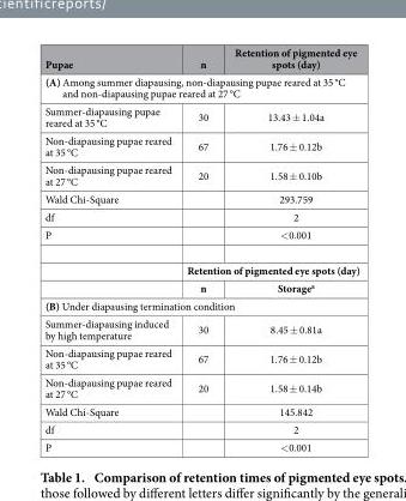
<table><thead><tr><td>Pupae</td><td>n</td><td>Retention of pigmented eye spots (day)</td></tr></thead><tbody><tr><td colspan="3">(A) Among summer diapausing, non-diapausing pupae reared at 35 °C and non-diapausing pupae reared at 27 °C</td></tr><tr><td>Summer-diapausing pupae reared at 35 °C</td><td>30</td><td>13.43 ± 1.04a</td></tr><tr><td>Non-diapausing pupae reared at 35 °C</td><td>67</td><td>1.76 ± 0.12b</td></tr><tr><td>Non-diapausing pupae reared at 27 °C</td><td>20</td><td>1.58 ± 0.10b</td></tr><tr><td>Wald Chi-Square</td><td></td><td>293.759</td></tr><tr><td>df</td><td></td><td>2</td></tr><tr><td rowspan="3">P</td><td></td><td>&lt; 0.001</td></tr><tr><td colspan="2">Retention of pigmented eye spots (day)</td></tr><tr><td>n</td><td>Storage<sup>a</sup></td></tr><tr><td colspan="3">(B) Under diapausing termination condition</td></tr><tr><td>Summer-diapausing induced by high temperature</td><td>30</td><td>8.45 ± 0.81a</td></tr><tr><td>Non-diapausing pupae reared at 35 °C</td><td>67</td><td>1.76 ± 0.12b</td></tr><tr><td>Non-diapausing pupae reared at 27 °C</td><td>20</td><td>1.58 ± 0.14b</td></tr><tr><td>Wald Chi-Square</td><td></td><td>145.842</td></tr><tr><td>df</td><td></td><td>2</td></tr><tr><td>P</td><td></td><td>&lt; 0.001</td></tr></tbody></table>